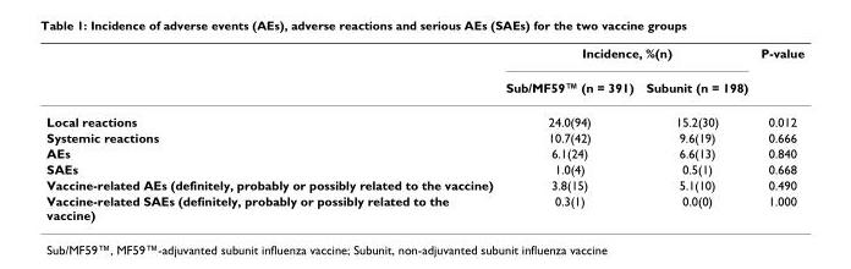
<table><thead><tr><td rowspan="2"></td><td colspan="2">Incidence, %(n)</td><td rowspan="2">P-value</td></tr><tr><td>Sub/MF59™ (n = 391)</td><td>Subunit (n = 198)</td></tr></thead><tbody><tr><td>Local reactions</td><td>24.0(94)</td><td>15.2(30)</td><td>0.012</td></tr><tr><td>Systemic reactions</td><td>10.7(42)</td><td>9.6(19)</td><td>0.666</td></tr><tr><td>AEs</td><td>6.1(24)</td><td>6.6(13)</td><td>0.840</td></tr><tr><td>SAEs</td><td>1.0(4)</td><td>0.5(1)</td><td>0.668</td></tr><tr><td>Vaccine-related AEs (definitely, probably or possibly related to the vaccine)</td><td>3.8(15)</td><td>5.1(10)</td><td>0.490</td></tr><tr><td>Vaccine-related SAEs (definitely, probably or possibly related to the vaccine)</td><td>0.3(1)</td><td>0.0(0)</td><td>1.000</td></tr></tbody></table>